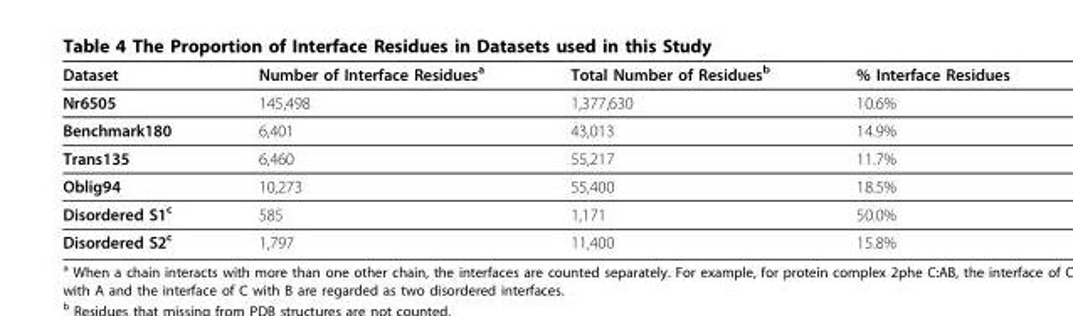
<table><thead><tr><td>Dataset</td><td>Number of Interface Residues<sup>a</sup></td><td>Total Number of Residues<sup>b</sup></td><td>% Interface Residues</td></tr></thead><tbody><tr><td>Nr6505</td><td>145,498</td><td>1,377,630</td><td>10.6%</td></tr><tr><td>Benchmark180</td><td>6,401</td><td>43,013</td><td>14.9%</td></tr><tr><td>Trans135</td><td>6,460</td><td>55,217</td><td>11.7%</td></tr><tr><td>Oblig94</td><td>10,273</td><td>55,400</td><td>18.5%</td></tr><tr><td>Disordered S1<sup>c</sup></td><td>585</td><td>1,171</td><td>50.0%</td></tr><tr><td>Disordered S2<sup>c</sup></td><td>1,797</td><td>11,400</td><td>15.8%</td></tr></tbody></table>